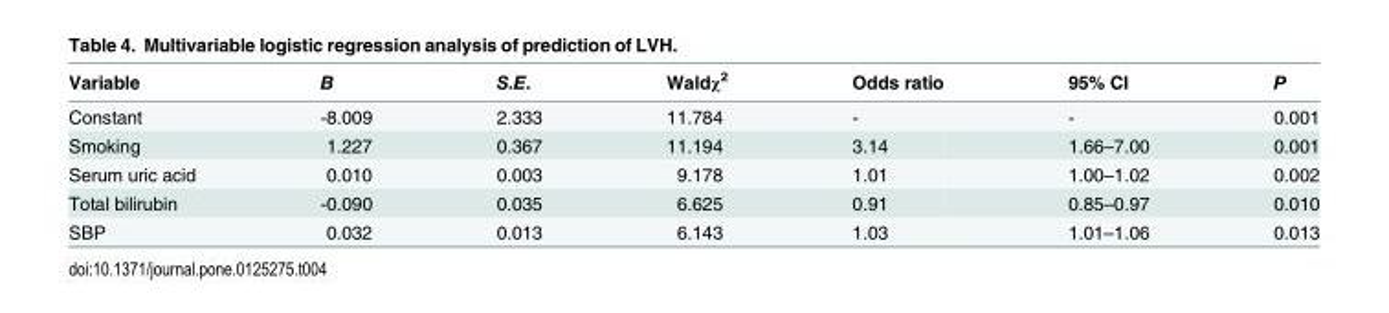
<table><thead><tr><td>Variable</td><td>B</td><td>S.E.</td><td>Waldχ<sup>2</sup></td><td>Odds ratio</td><td>95% CI</td><td>P</td></tr></thead><tbody><tr><td>Constant</td><td>-8.009</td><td>2.333</td><td>11.784</td><td>-</td><td>-</td><td>0.001</td></tr><tr><td>Smoking</td><td>1.227</td><td>0.367</td><td>11.194</td><td>3.14</td><td>1.66–7.00</td><td>0.001</td></tr><tr><td>Serum uric acid</td><td>0.010</td><td>0.003</td><td>9.178</td><td>1.01</td><td>1.00–1.02</td><td>0.002</td></tr><tr><td>Total bilirubin</td><td>-0.090</td><td>0.035</td><td>6.625</td><td>0.91</td><td>0.85–0.97</td><td>0.010</td></tr><tr><td>SBP</td><td>0.032</td><td>0.013</td><td>6.143</td><td>1.03</td><td>1.01–1.06</td><td>0.013</td></tr></tbody></table>